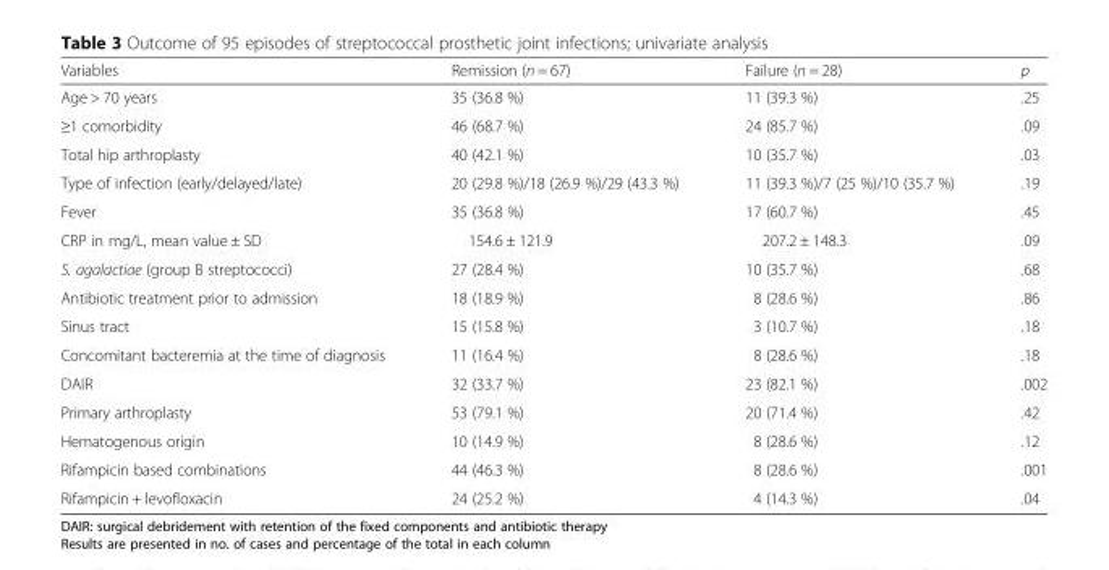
<table><thead><tr><td>Variables</td><td>Remission (n = 67)</td><td>Failure (n = 28)</td><td>p</td></tr></thead><tbody><tr><td>Age &gt; 70 years</td><td>35 (36.8 %)</td><td>11 (39.3 %)</td><td>.25</td></tr><tr><td>≥1 comorbidity</td><td>46 (68.7 %)</td><td>24 (85.7 %)</td><td>.09</td></tr><tr><td>Total hip arthroplasty</td><td>40 (42.1 %)</td><td>10 (35.7 %)</td><td>.03</td></tr><tr><td>Type of infection (early/delayed/late)</td><td>20 (29.8 %)/18 (26.9 %)/29 (43.3 %)</td><td>11 (39.3 %)/7 (25 %)/10 (35.7 %)</td><td>.19</td></tr><tr><td>Fever</td><td>35 (36.8 %)</td><td>17 (60.7 %)</td><td>.45</td></tr><tr><td>CRP in mg/L, mean value ± SD</td><td>154.6 ± 121.9</td><td>207.2 ± 148.3</td><td>.09</td></tr><tr><td>S. agalactiae (group B streptococci)</td><td>27 (28.4 %)</td><td>10 (35.7 %)</td><td>.68</td></tr><tr><td>Antibiotic treatment prior to admission</td><td>18 (18.9 %)</td><td>8 (28.6 %)</td><td>.86</td></tr><tr><td>Sinus tract</td><td>15 (15.8 %)</td><td>3 (10.7 %)</td><td>.18</td></tr><tr><td>Concomitant bacteremia at the time of diagnosis</td><td>11 (16.4 %)</td><td>8 (28.6 %)</td><td>.18</td></tr><tr><td>DAIR</td><td>32 (33.7 %)</td><td>23 (82.1 %)</td><td>.002</td></tr><tr><td>Primary arthroplasty</td><td>53 (79.1 %)</td><td>20 (71.4 %)</td><td>.42</td></tr><tr><td>Hematogenous origin</td><td>10 (14.9 %)</td><td>8 (28.6 %)</td><td>.12</td></tr><tr><td>Rifampicin based combinations</td><td>44 (46.3 %)</td><td>8 (28.6 %)</td><td>.001</td></tr><tr><td>Rifampicin + levofloxacin</td><td>24 (25.2 %)</td><td>4 (14.3 %)</td><td>.04</td></tr></tbody></table>